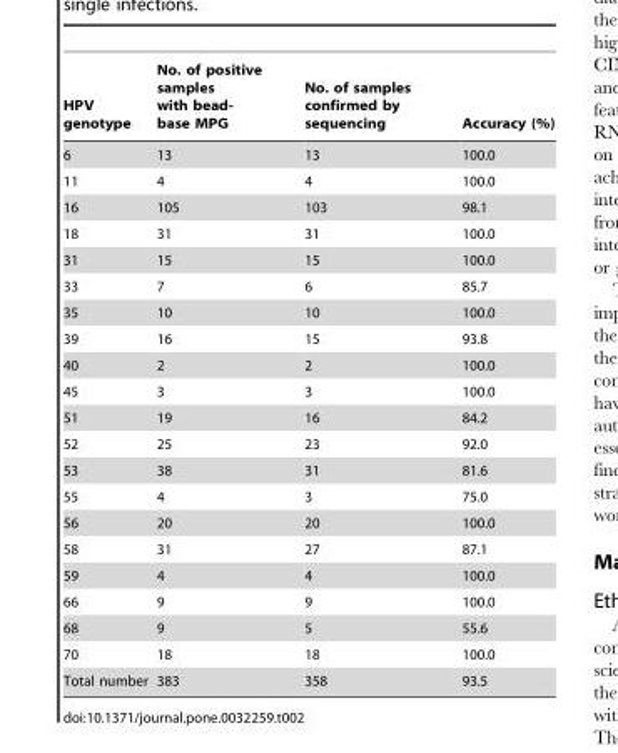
<table><thead><tr><td>HPV genotype</td><td>No. of positive samples with bead- base MPG</td><td>No. of samples confirmed by sequencing</td><td>Accuracy (%)</td></tr></thead><tbody><tr><td>6</td><td>13</td><td>13</td><td>100.0</td></tr><tr><td>11</td><td>4</td><td>4</td><td>100.0</td></tr><tr><td>16</td><td>105</td><td>103</td><td>98.1</td></tr><tr><td>18</td><td>31</td><td>31</td><td>100.0</td></tr><tr><td>31</td><td>15</td><td>15</td><td>100.0</td></tr><tr><td>33</td><td>7</td><td>6</td><td>85.7</td></tr><tr><td>35</td><td>10</td><td>10</td><td>100.0</td></tr><tr><td>39</td><td>16</td><td>15</td><td>93.8</td></tr><tr><td>40</td><td>2</td><td>2</td><td>100.0</td></tr><tr><td>45</td><td>3</td><td>3</td><td>100.0</td></tr><tr><td>51</td><td>19</td><td>16</td><td>84.2</td></tr><tr><td>52</td><td>25</td><td>23</td><td>92.0</td></tr><tr><td>53</td><td>38</td><td>31</td><td>81.6</td></tr><tr><td>55</td><td>4</td><td>3</td><td>75.0</td></tr><tr><td>56</td><td>20</td><td>20</td><td>100.0</td></tr><tr><td>58</td><td>31</td><td>27</td><td>87.1</td></tr><tr><td>59</td><td>4</td><td>4</td><td>100.0</td></tr><tr><td>66</td><td>9</td><td>9</td><td>100.0</td></tr><tr><td>68</td><td>9</td><td>5</td><td>55.6</td></tr><tr><td>70</td><td>18</td><td>18</td><td>100.0</td></tr><tr><td>Total number</td><td>383</td><td>358</td><td>93.5</td></tr></tbody></table>